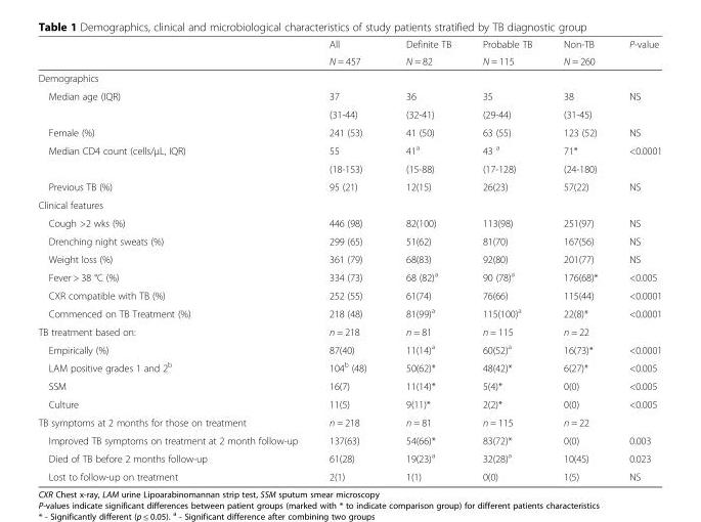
<table><thead><tr><td rowspan="2"></td><td rowspan="2">All N = 457</td><td rowspan="2">Definite TB N = 82</td><td rowspan="2">Probable TB N = 115</td><td rowspan="2">Non-TB N = 260</td><td rowspan="2">P-value</td></tr><tr></tr></thead><tbody><tr><td colspan="6">Demographics</td></tr><tr><td rowspan="2">Median age (IQR)</td><td>37</td><td>36</td><td>35</td><td>38</td><td rowspan="2">NS</td></tr><tr><td>(31-44)</td><td>(32-41)</td><td>(29-44)</td><td>(31-45)</td></tr><tr><td>Female (%)</td><td>241 (53)</td><td>41 (50)</td><td>63 (55)</td><td>123 (52)</td><td>NS</td></tr><tr><td rowspan="2">Median CD4 count (cells/μL, IQR)</td><td>55</td><td>41<sup>a</sup></td><td>43 <sup>a</sup></td><td>71*</td><td rowspan="2">&lt;0.0001</td></tr><tr><td>(18-153)</td><td>(15-88)</td><td>(17-128)</td><td>(24-180)</td></tr><tr><td>Previous TB (%)</td><td>95 (21)</td><td>12(15)</td><td>26(23)</td><td>57(22)</td><td>NS</td></tr><tr><td colspan="6">Clinical features</td></tr><tr><td>Cough &gt;2 wks (%)</td><td>446 (98)</td><td>82(100)</td><td>113(98)</td><td>251(97)</td><td>NS</td></tr><tr><td>Drenching night sweats (%)</td><td>299 (65)</td><td>51(62)</td><td>81(70)</td><td>167(56)</td><td>NS</td></tr><tr><td>Weight loss (%)</td><td>361 (79)</td><td>68(83)</td><td>92(80)</td><td>201(77)</td><td>NS</td></tr><tr><td>Fever &gt; 38 °C (%)</td><td>334 (73)</td><td>68 (82)<sup>a</sup></td><td>90 (78)<sup>a</sup></td><td>176(68)*</td><td>&lt;0.005</td></tr><tr><td>CXR compatible with TB (%)</td><td>252 (55)</td><td>61(74)</td><td>76(66)</td><td>115(44)</td><td>&lt;0.0001</td></tr><tr><td>Commenced on TB Treatment (%)</td><td>218 (48)</td><td>81(99)<sup>a</sup></td><td>115(100)<sup>a</sup></td><td>22(8)*</td><td>&lt;0.0001</td></tr><tr><td>TB treatment based on:</td><td>n = 218</td><td>n = 81</td><td>n = 115</td><td>n = 22</td><td></td></tr><tr><td>Empirically (%)</td><td>87(40)</td><td>11(14)<sup>a</sup></td><td>60(52)<sup>a</sup></td><td>16(73)*</td><td>&lt;0.0001</td></tr><tr><td>LAM positive grades 1 and 2<sup>b</sup></td><td>104<sup>b</sup> (48)</td><td>50(62)*</td><td>48(42)*</td><td>6(27)*</td><td>&lt;0.005</td></tr><tr><td>SSM</td><td>16(7)</td><td>11(14)*</td><td>5(4)*</td><td>0(0)</td><td>&lt;0.005</td></tr><tr><td>Culture</td><td>11(5)</td><td>9(11)*</td><td>2(2)*</td><td>0(0)</td><td>&lt;0.005</td></tr><tr><td>TB symptoms at 2 months for those on treatment</td><td>n = 218</td><td>n = 81</td><td>n = 115</td><td>n = 22</td><td></td></tr><tr><td>Improved TB symptoms on treatment at 2 month follow-up</td><td>137(63)</td><td>54(66)*</td><td>83(72)*</td><td>0(0)</td><td>0.003</td></tr><tr><td>Died of TB before 2 months follow-up</td><td>61(28)</td><td>19(23)<sup>a</sup></td><td>32(28)<sup>a</sup></td><td>10(45)</td><td>0.023</td></tr><tr><td>Lost to follow-up on treatment</td><td>2(1)</td><td>1(1)</td><td>0(0)</td><td>1(5)</td><td>NS</td></tr></tbody></table>